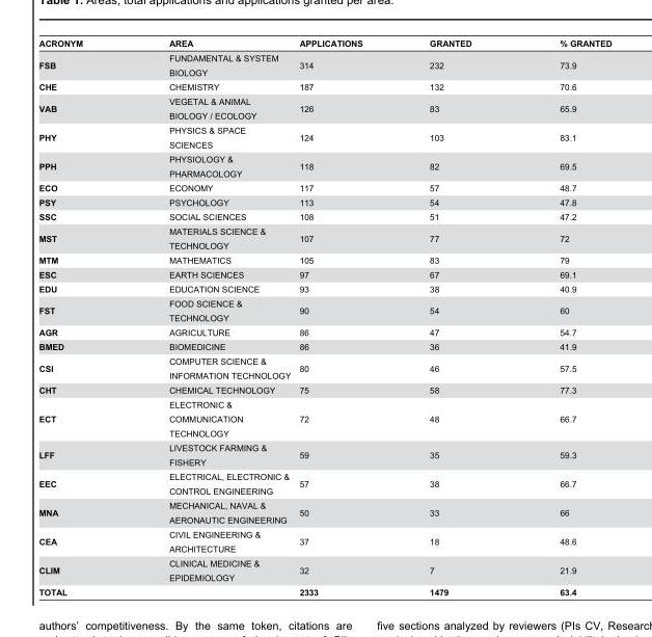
<table><thead><tr><td>ACRONYM</td><td>AREA</td><td>APPLICATIONS</td><td>GRANTED</td><td>% GRANTED</td></tr></thead><tbody><tr><td>FSB</td><td>FUNDAMENTAL &amp; SYSTEM BIOLOGY</td><td>314</td><td>232</td><td>73.9</td></tr><tr><td>CHE</td><td>CHEMISTRY</td><td>187</td><td>132</td><td>70.6</td></tr><tr><td>VAB</td><td>VEGETAL &amp; ANIMAL BIOLOGY / ECOLOGY</td><td>126</td><td>83</td><td>65.9</td></tr><tr><td>PHY</td><td>PHYSICS &amp; SPACE SCIENCES</td><td>124</td><td>103</td><td>83.1</td></tr><tr><td>PPH</td><td>PHYSIOLOGY &amp; PHARMACOLOGY</td><td>118</td><td>82</td><td>69.5</td></tr><tr><td>ECO</td><td>ECONOMY</td><td>117</td><td>57</td><td>48.7</td></tr><tr><td>PSY</td><td>PSYCHOLOGY</td><td>113</td><td>54</td><td>47.8</td></tr><tr><td>SSC</td><td>SOCIAL SCIENCES</td><td>108</td><td>51</td><td>47.2</td></tr><tr><td>MST</td><td>MATERIALS SCIENCE &amp; TECHNOLOGY</td><td>107</td><td>77</td><td>72</td></tr><tr><td>MTM</td><td>MATHEMATICS</td><td>105</td><td>83</td><td>79</td></tr><tr><td>ESC</td><td>EARTH SCIENCES</td><td>97</td><td>67</td><td>69.1</td></tr><tr><td>EDU</td><td>EDUCATION SCIENCE</td><td>93</td><td>38</td><td>40.9</td></tr><tr><td>FST</td><td>FOOD SCIENCE &amp; TECHNOLOGY</td><td>90</td><td>54</td><td>60</td></tr><tr><td>AGR</td><td>AGRICULTURE</td><td>86</td><td>47</td><td>54.7</td></tr><tr><td>BMED</td><td>BIOMEDICINE</td><td>86</td><td>36</td><td>41.9</td></tr><tr><td>CSI</td><td>COMPUTER SCIENCE &amp; INFORMATION TECHNOLOGY</td><td>80</td><td>46</td><td>57.5</td></tr><tr><td>CHT</td><td>CHEMICAL TECHNOLOGY</td><td>75</td><td>58</td><td>77.3</td></tr><tr><td>ECT</td><td>ELECTRONIC &amp; COMMUNICATION TECHNOLOGY</td><td>72</td><td>48</td><td>66.7</td></tr><tr><td>LFF</td><td>LIVESTOCK FARMING &amp; FISHERY</td><td>59</td><td>35</td><td>59.3</td></tr><tr><td>EEC</td><td>ELECTRICAL, ELECTRONIC &amp; CONTROL ENGINEERING</td><td>57</td><td>38</td><td>66.7</td></tr><tr><td>MNA</td><td>MECHANICAL, NAVAL &amp; AERONAUTIC ENGINEERING</td><td>50</td><td>33</td><td>66</td></tr><tr><td>CEA</td><td>CIVIL ENGINEERING &amp; ARCHITECTURE</td><td>37</td><td>18</td><td>48.6</td></tr><tr><td>CLIM</td><td>CLINICAL MEDICINE &amp; EPIDEMIOLOGY</td><td>32</td><td>7</td><td>21.9</td></tr><tr><td>TOTAL</td><td></td><td>2333</td><td>1479</td><td>63.4</td></tr></tbody></table>